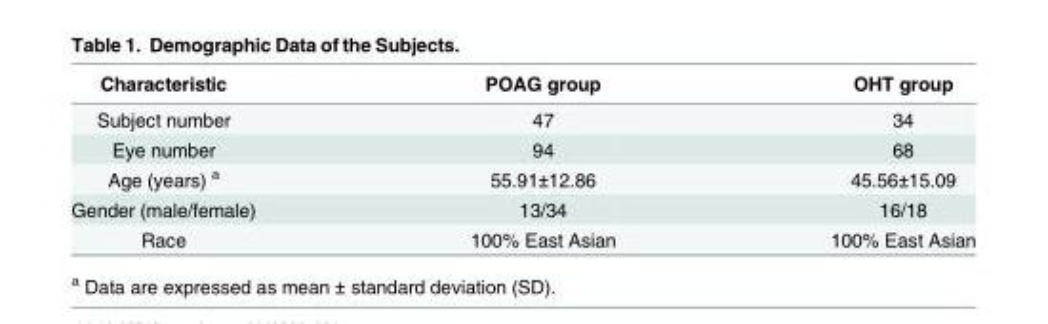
<table><thead><tr><td>Characteristic</td><td>POAG group</td><td>OHT group</td></tr></thead><tbody><tr><td>Subject number</td><td>47</td><td>34</td></tr><tr><td>Eye number</td><td>94</td><td>68</td></tr><tr><td>Age (years) <sup>a</sup></td><td>55.91±12.86</td><td>45.56±15.09</td></tr><tr><td>Gender (male/female)</td><td>13/34</td><td>16/18</td></tr><tr><td>Race</td><td>100% East Asian</td><td>100% East Asian</td></tr></tbody></table>